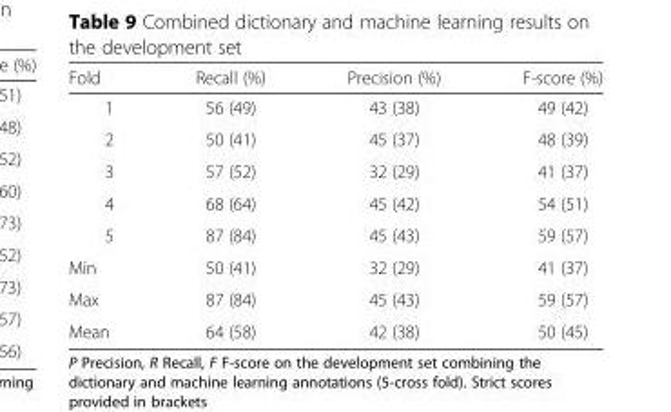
<table><thead><tr><td>Fold</td><td>Recall (%)</td><td>Precision (%)</td><td>F-score (%)</td></tr></thead><tbody><tr><td>1</td><td>56 (49)</td><td>43 (38)</td><td>49 (42)</td></tr><tr><td>2</td><td>50 (41)</td><td>45 (37)</td><td>48 (39)</td></tr><tr><td>3</td><td>57 (52)</td><td>32 (29)</td><td>41 (37)</td></tr><tr><td>4</td><td>68 (64)</td><td>45 (42)</td><td>54 (51)</td></tr><tr><td>5</td><td>87 (84)</td><td>45 (43)</td><td>59 (57)</td></tr><tr><td>Min</td><td>50 (41)</td><td>32 (29)</td><td>41 (37)</td></tr><tr><td>Max</td><td>87 (84)</td><td>45 (43)</td><td>59 (57)</td></tr><tr><td>Mean</td><td>64 (58)</td><td>42 (38)</td><td>50 (45)</td></tr></tbody></table>